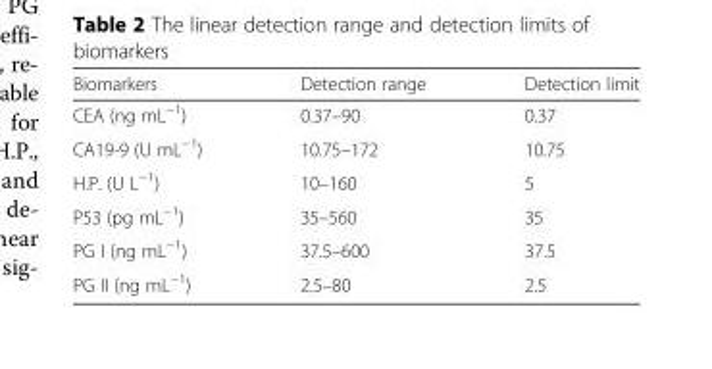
<table><thead><tr><td>Biomarkers</td><td>Detection range</td><td>Detection limit</td></tr></thead><tbody><tr><td>CEA (ng mL<sup>−1</sup>)</td><td>0.37–90</td><td>0.37</td></tr><tr><td>CA19-9 (U mL<sup>−1</sup>)</td><td>10.75–172</td><td>10.75</td></tr><tr><td>H.P. (U L<sup>−1</sup>)</td><td>10–160</td><td>5</td></tr><tr><td>P53 (pg mL<sup>−1</sup>)</td><td>35–560</td><td>35</td></tr><tr><td>PG I (ng mL<sup>−1</sup>)</td><td>37.5–600</td><td>37.5</td></tr><tr><td>PG II (ng mL<sup>−1</sup>)</td><td>2.5–80</td><td>2.5</td></tr></tbody></table>